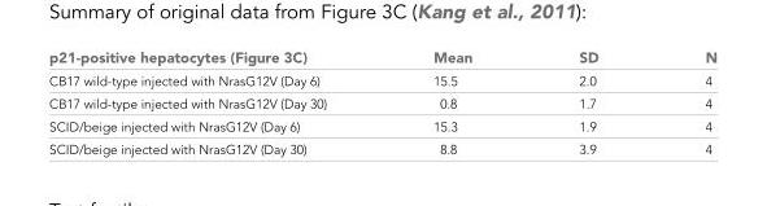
<table><thead><tr><td>p21-positive hepatocytes (Figure 3C)</td><td>Mean</td><td>SD</td><td>N</td></tr></thead><tbody><tr><td>CB17 wild-type injected with NrasG12V (Day 6)</td><td>15.5</td><td>2.0</td><td>4</td></tr><tr><td>CB17 wild-type injected with NrasG12V (Day 30)</td><td>0.8</td><td>1.7</td><td>4</td></tr><tr><td>SCID/beige injected with NrasG12V (Day 6)</td><td>15.3</td><td>1.9</td><td>4</td></tr><tr><td>SCID/beige injected with NrasG12V (Day 30)</td><td>8.8</td><td>3.9</td><td>4</td></tr></tbody></table>